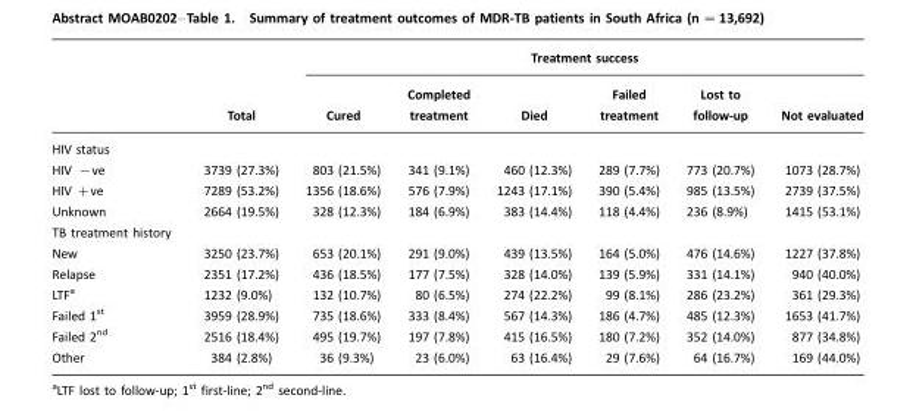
<table><thead><tr><td rowspan="2"></td><td rowspan="2">Total</td><td colspan="6">Treatment success</td></tr><tr><td>Cured</td><td>Completed treatment</td><td>Died</td><td>Failed treatment</td><td>Lost to follow-up</td><td>Not evaluated</td></tr></thead><tbody><tr><td colspan="8">HIV status</td></tr><tr><td>HIV −ve</td><td>3739 (27.3%)</td><td>803 (21.5%)</td><td>341 (9.1%)</td><td>460 (12.3%)</td><td>289 (7.7%)</td><td>773 (20.7%)</td><td>1073 (28.7%)</td></tr><tr><td>HIV +ve</td><td>7289 (53.2%)</td><td>1356 (18.6%)</td><td>576 (7.9%)</td><td>1243 (17.1%)</td><td>390 (5.4%)</td><td>985 (13.5%)</td><td>2739 (37.5%)</td></tr><tr><td>Unknown</td><td>2664 (19.5%)</td><td>328 (12.3%)</td><td>184 (6.9%)</td><td>383 (14.4%)</td><td>118 (4.4%)</td><td>236 (8.9%)</td><td>1415 (53.1%)</td></tr><tr><td colspan="8">TB treatment history</td></tr><tr><td>New</td><td>3250 (23.7%)</td><td>653 (20.1%)</td><td>291 (9.0%)</td><td>439 (13.5%)</td><td>164 (5.0%)</td><td>476 (14.6%)</td><td>1227 (37.8%)</td></tr><tr><td>Relapse</td><td>2351 (17.2%)</td><td>436 (18.5%)</td><td>177 (7.5%)</td><td>328 (14.0%)</td><td>139 (5.9%)</td><td>331 (14.1%)</td><td>940 (40.0%)</td></tr><tr><td>LTFa</td><td>1232 (9.0%)</td><td>132 (10.7%)</td><td>80 (6.5%)</td><td>274 (22.2%)</td><td>99 (8.1%)</td><td>286 (23.2%)</td><td>361 (29.3%)</td></tr><tr><td>Failed 1st</td><td>3959 (28.9%)</td><td>735 (18.6%)</td><td>333 (8.4%)</td><td>567 (14.3%)</td><td>186 (4.7%)</td><td>485 (12.3%)</td><td>1653 (41.7%)</td></tr><tr><td>Failed 2nd</td><td>2516 (18.4%)</td><td>495 (19.7%)</td><td>197 (7.8%)</td><td>415 (16.5%)</td><td>180 (7.2%)</td><td>352 (14.0%)</td><td>877 (34.8%)</td></tr><tr><td>Other</td><td>384 (2.8%)</td><td>36 (9.3%)</td><td>23 (6.0%)</td><td>63 (16.4%)</td><td>29 (7.6%)</td><td>64 (16.7%)</td><td>169 (44.0%)</td></tr></tbody></table>